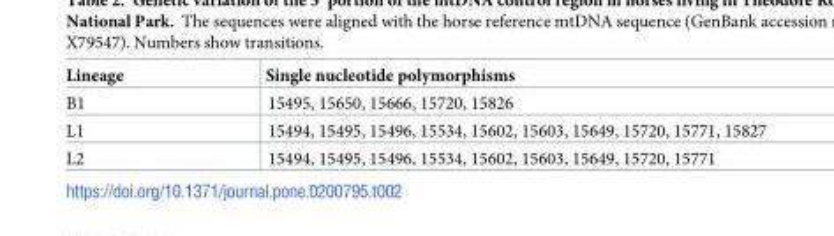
<table><thead><tr><td>Lineage</td><td>Single nucleotide polymorphisms</td></tr></thead><tbody><tr><td>B1</td><td>15495, 15650, 15666, 15720, 15826</td></tr><tr><td>L1</td><td>15494, 15495, 15496, 15534, 15602, 15603, 15649, 15720, 15771, 15827</td></tr><tr><td>L2</td><td>15494, 15495, 15496, 15534, 15602, 15603, 15649, 15720, 15771</td></tr></tbody></table>